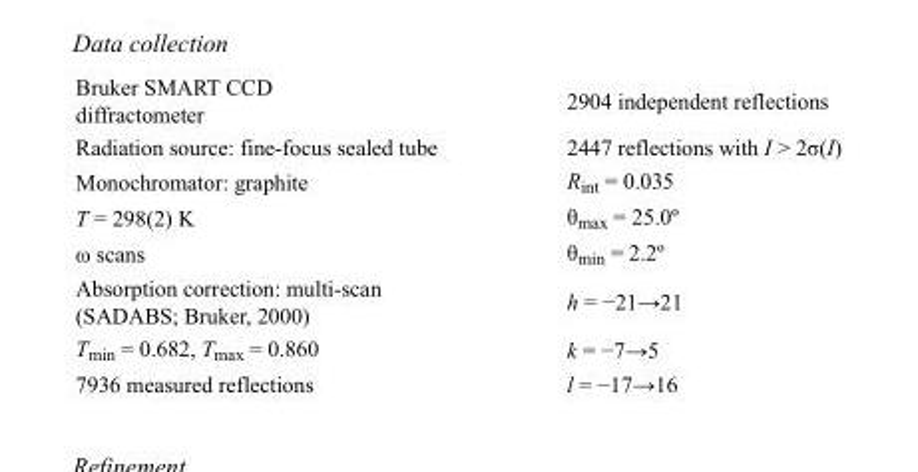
<table><tbody><tr><td>Bruker SMART CCD diffractometer</td><td>2904 independent reflections</td></tr><tr><td>Radiation source: fine-focus sealed tube</td><td>2447 reflections with I &gt; 2σ(I)</td></tr><tr><td>Monochromator: graphite</td><td>R<sub>int</sub> = 0.035</td></tr><tr><td>T = 298(2) K</td><td>θ<sub>max</sub> = 25.0º</td></tr><tr><td>ω scans</td><td>θ<sub>min</sub> = 2.2º</td></tr><tr><td>Absorption correction: multi-scan (SADABS; Bruker, 2000)</td><td>h = −21→21</td></tr><tr><td>T<sub>min</sub> = 0.682, T<sub>max</sub> = 0.860</td><td>k = −7→5</td></tr><tr><td>7936 measured reflections</td><td>l = −17→16</td></tr></tbody></table>